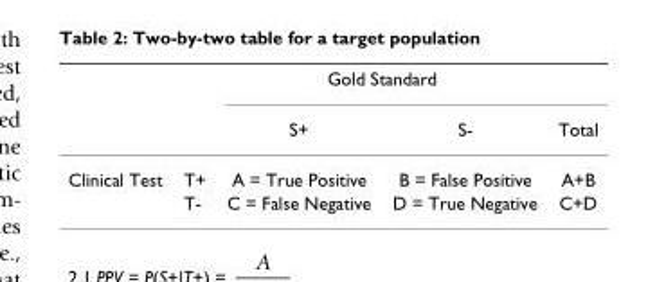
<table><thead><tr><td rowspan="2"></td><td rowspan="2"></td><td colspan="2">Gold Standard</td><td rowspan="2">Total</td></tr><tr><td>S+</td><td>S-</td></tr></thead><tbody><tr><td rowspan="2">Clinical Test</td><td>T+</td><td>A = True Positive</td><td>B = False Positive</td><td>A+B</td></tr><tr><td>T-</td><td>C = False Negative</td><td>D = True Negative</td><td>C+D</td></tr></tbody></table>